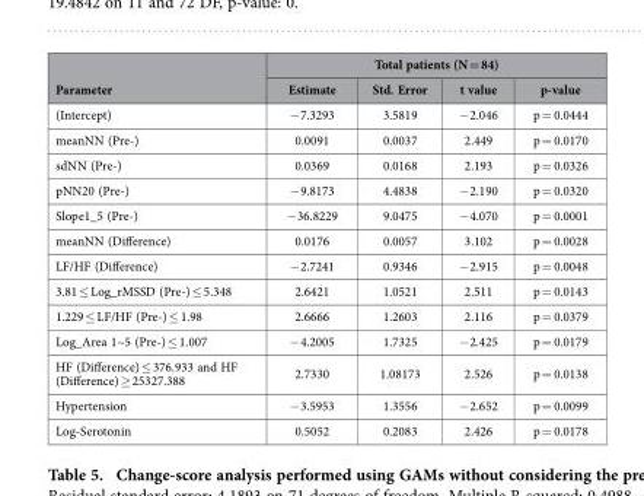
<table><thead><tr><td rowspan="2">Parameter</td><td colspan="4">Total patients (N = 84)</td></tr><tr><td>Estimate</td><td>Std. Error</td><td>t value</td><td>p-value</td></tr></thead><tbody><tr><td>(Intercept)</td><td>− 7.3293</td><td>3.5819</td><td>− 2.046</td><td>p = 0.0444</td></tr><tr><td>meanNN (Pre-)</td><td>0.0091</td><td>0.0037</td><td>2.449</td><td>p = 0.0170</td></tr><tr><td>sdNN (Pre-)</td><td>0.0369</td><td>0.0168</td><td>2.193</td><td>p = 0.0326</td></tr><tr><td>pNN20 (Pre-)</td><td>− 9.8173</td><td>4.4838</td><td>− 2.190</td><td>p = 0.0320</td></tr><tr><td>Slope1_5 (Pre-)</td><td>− 36.8229</td><td>9.0475</td><td>− 4.070</td><td>p = 0.0001</td></tr><tr><td>meanNN (Difference)</td><td>0.0176</td><td>0.0057</td><td>3.102</td><td>p = 0.0028</td></tr><tr><td>LF/HF (Difference)</td><td>− 2.7241</td><td>0.9346</td><td>− 2.915</td><td>p = 0.0048</td></tr><tr><td>3.81 ≤ Log_rMSSD (Pre-) ≤ 5.348</td><td>2.6421</td><td>1.0521</td><td>2.511</td><td>p = 0.0143</td></tr><tr><td>1.229 ≤ LF/HF (Pre-) ≤ 1.98</td><td>2.6666</td><td>1.2603</td><td>2.116</td><td>p = 0.0379</td></tr><tr><td>Log_Area 1~5 (Pre-) ≤ 1.007</td><td>− 4.2005</td><td>1.7325</td><td>− 2.425</td><td>p = 0.0179</td></tr><tr><td>HF (Difference) ≤ 376.933 and HF (Difference) ≥ 25327.388</td><td>2.7330</td><td>1.08173</td><td>2.526</td><td>p = 0.0138</td></tr><tr><td>Hypertension</td><td>− 3.5953</td><td>1.3556</td><td>− 2.652</td><td>p = 0.0099</td></tr><tr><td>Log-Serotonin</td><td>0.5052</td><td>0.2083</td><td>2.426</td><td>p = 0.0178</td></tr></tbody></table>